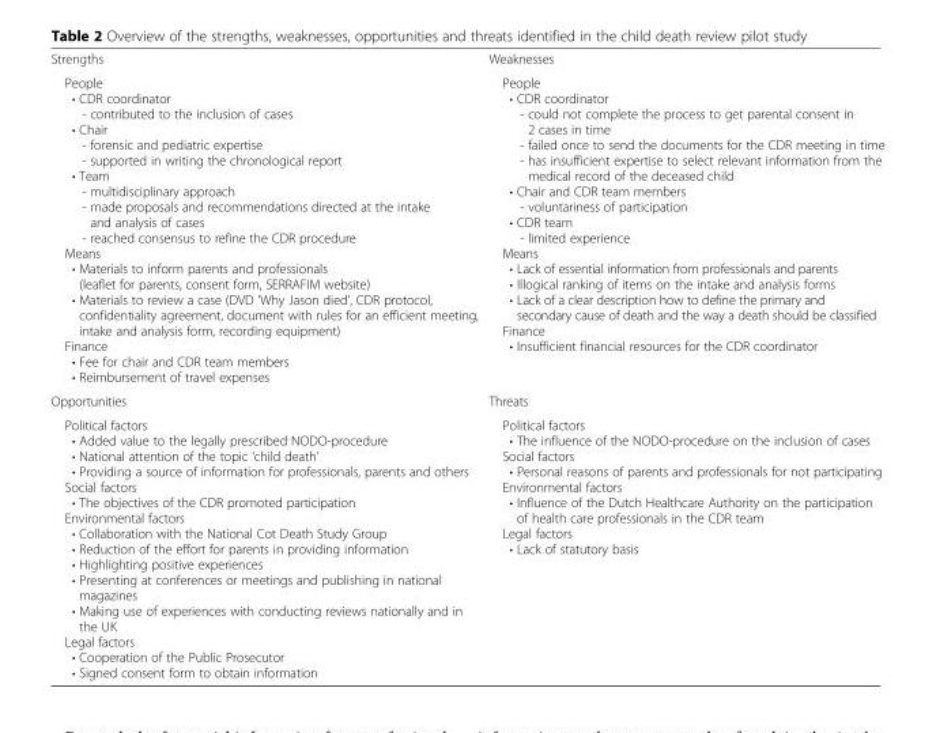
<table><tbody><tr><td>Strengths</td><td>Weaknesses</td></tr><tr><td>People • CDR coordinator - contributed to the inclusion of cases • Chair - forensic and pediatric expertise - supported in writing the chronological report • Team - multidisciplinary approach - made proposals and recommendations directed at the intake and analysis of cases - reached consensus to refine the CDR procedure Means • Materials to inform parents and professionals (leaflet for parents, consent form, SERRAFIM website) • Materials to review a case (DVD ‘Why Jason died’, CDR protocol, confidentiality agreement, document with rules for an efficient meeting, intake and analysis form, recording equipment) Finance • Fee for chair and CDR team members • Reimbursement of travel expenses</td><td>People • CDR coordinator - could not complete the process to get parental consent in 2 cases in time - failed once to send the documents for the CDR meeting in time - has insufficient expertise to select relevant information from the medical record of the deceased child • Chair and CDR team members - voluntariness of participation • CDR team - limited experience Means • Lack of essential information from professionals and parents • Illogical ranking of items on the intake and analysis forms • Lack of a clear description how to define the primary and secondary cause of death and the way a death should be classified Finance • Insufficient financial resources for the CDR coordinator</td></tr><tr><td>Opportunities</td><td>Threats</td></tr><tr><td>Political factors • Added value to the legally prescribed NODO-procedure • National attention of the topic ‘child death’ • Providing a source of information for professionals, parents and others Social factors • The objectives of the CDR promoted participation Environmental factors • Collaboration with the National Cot Death Study Group • Reduction of the effort for parents in providing information • Highlighting positive experiences • Presenting at conferences or meetings and publishing in national magazines • Making use of experiences with conducting reviews nationally and in the UK Legal factors • Cooperation of the Public Prosecutor • Signed consent form to obtain information</td><td>Political factors • The influence of the NODO-procedure on the inclusion of cases Social factors • Personal reasons of parents and professionals for not participating Environmental factors • Influence of the Dutch Healthcare Authority on the participation of health care professionals in the CDR team Legal factors • Lack of statutory basis</td></tr></tbody></table>